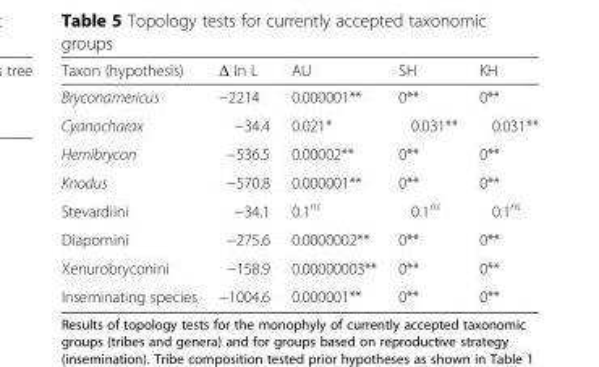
<table><thead><tr><td>Taxon (hypothesis)</td><td>Δ In L</td><td>AU</td><td>SH</td><td>KH</td></tr></thead><tbody><tr><td>Bryconamericus</td><td>−2214</td><td>0.000001**</td><td>0**</td><td>0**</td></tr><tr><td>Cyanocharax</td><td>−34.4</td><td>0.021*</td><td>0.031**</td><td>0.031**</td></tr><tr><td>Hemibrycon</td><td>−536.5</td><td>0.00002**</td><td>0**</td><td>0**</td></tr><tr><td>Knodus</td><td>−570.8</td><td>0.000001**</td><td>0**</td><td>0**</td></tr><tr><td>Stevardiini</td><td>−34.1</td><td>0.1<sup>ns</sup></td><td>0.1<sup>ns</sup></td><td>0.1<sup>ns</sup></td></tr><tr><td>Diapomini</td><td>−275.6</td><td>0.0000002**</td><td>0**</td><td>0**</td></tr><tr><td>Xenurobryconini</td><td>−158.9</td><td>0.00000003**</td><td>0**</td><td>0**</td></tr><tr><td>Inseminating species</td><td>−1004.6</td><td>0.000001**</td><td>0**</td><td>0**</td></tr></tbody></table>